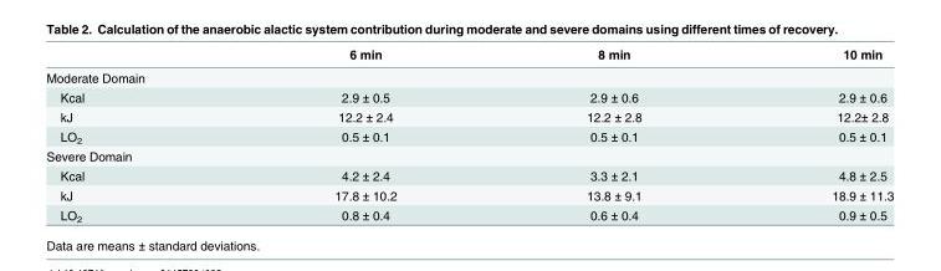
<table><thead><tr><td></td><td>6 min</td><td>8 min</td><td>10 min</td></tr></thead><tbody><tr><td colspan="4">Moderate Domain</td></tr><tr><td>Kcal</td><td>2.9 ± 0.5</td><td>2.9 ± 0.6</td><td>2.9 ± 0.6</td></tr><tr><td>kJ</td><td>12.2 ± 2.4</td><td>12.2 ± 2.8</td><td>12.2± 2.8</td></tr><tr><td>LO<sub>2</sub></td><td>0.5 ± 0.1</td><td>0.5 ± 0.1</td><td>0.5 ± 0.1</td></tr><tr><td colspan="4">Severe Domain</td></tr><tr><td>Kcal</td><td>4.2 ± 2.4</td><td>3.3 ± 2.1</td><td>4.8 ± 2.5</td></tr><tr><td>kJ</td><td>17.8 ± 10.2</td><td>13.8 ± 9.1</td><td>18.9 ± 11.3</td></tr><tr><td>LO<sub>2</sub></td><td>0.8 ± 0.4</td><td>0.6 ± 0.4</td><td>0.9 ± 0.5</td></tr></tbody></table>